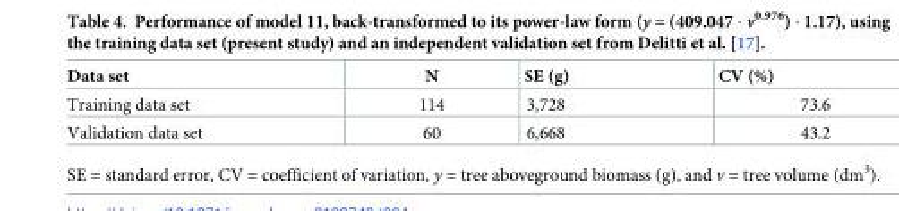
<table><thead><tr><td>Data set</td><td>N</td><td>SE (g)</td><td>CV (%)</td></tr></thead><tbody><tr><td>Training data set</td><td>114</td><td>3,728</td><td>73.6</td></tr><tr><td>Validation data set</td><td>60</td><td>6,668</td><td>43.2</td></tr></tbody></table>